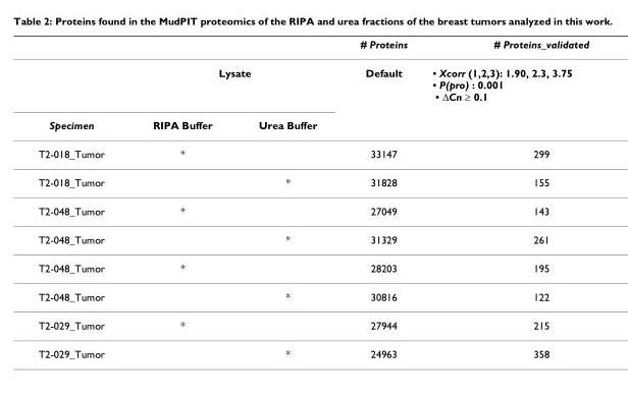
<table><thead><tr><td></td><td></td><td></td><td># Proteins</td><td># Proteins_validated</td></tr></thead><tbody><tr><td></td><td colspan="2">Lysate</td><td>Default</td><td>• Xcorr (1,2,3): 1.90, 2.3, 3.75 • P(pro) : 0.001 • ΔCn ≥ 0.1</td></tr><tr><td>Specimen</td><td>RIPA Buffer</td><td>Urea Buffer</td><td></td><td></td></tr><tr><td>T2-018_Tumor</td><td>*</td><td></td><td>33147</td><td>299</td></tr><tr><td>T2-018_Tumor</td><td></td><td>*</td><td>31828</td><td>155</td></tr><tr><td>T2-048_Tumor</td><td>*</td><td></td><td>27049</td><td>143</td></tr><tr><td>T2-048_Tumor</td><td></td><td>*</td><td>31329</td><td>261</td></tr><tr><td>T2-048_Tumor</td><td>*</td><td></td><td>28203</td><td>195</td></tr><tr><td>T2-048_Tumor</td><td></td><td>*</td><td>30816</td><td>122</td></tr><tr><td>T2-029_Tumor</td><td>*</td><td></td><td>27944</td><td>215</td></tr><tr><td>T2-029_Tumor</td><td></td><td>*</td><td>24963</td><td>358</td></tr></tbody></table>